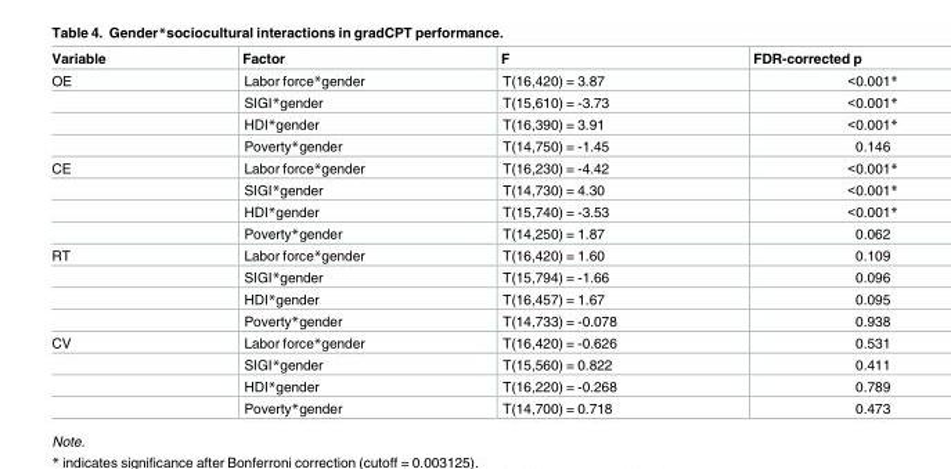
<table><thead><tr><td>Variable</td><td>Factor</td><td>F</td><td>FDR-corrected p</td></tr></thead><tbody><tr><td rowspan="4">OE</td><td>Labor force*gender</td><td>T(16,420) = 3.87</td><td>&lt;0.001*</td></tr><tr><td>SIGI*gender</td><td>T(15,610) = -3.73</td><td>&lt;0.001*</td></tr><tr><td>HDI*gender</td><td>T(16,390) = 3.91</td><td>&lt;0.001*</td></tr><tr><td>Poverty*gender</td><td>T(14,750) = -1.45</td><td>0.146</td></tr><tr><td rowspan="4">CE</td><td>Labor force*gender</td><td>T(16,230) = -4.42</td><td>&lt;0.001*</td></tr><tr><td>SIGI*gender</td><td>T(14,730) = 4.30</td><td>&lt;0.001*</td></tr><tr><td>HDI*gender</td><td>T(15,740) = -3.53</td><td>&lt;0.001*</td></tr><tr><td>Poverty*gender</td><td>T(14,250) = 1.87</td><td>0.062</td></tr><tr><td rowspan="4">RT</td><td>Labor force*gender</td><td>T(16,420) = 1.60</td><td>0.109</td></tr><tr><td>SIGI*gender</td><td>T(15,794) = -1.66</td><td>0.096</td></tr><tr><td>HDI*gender</td><td>T(16,457) = 1.67</td><td>0.095</td></tr><tr><td>Poverty*gender</td><td>T(14,733) = -0.078</td><td>0.938</td></tr><tr><td rowspan="4">CV</td><td>Labor force*gender</td><td>T(16,420) = -0.626</td><td>0.531</td></tr><tr><td>SIGI*gender</td><td>T(15,560) = 0.822</td><td>0.411</td></tr><tr><td>HDI*gender</td><td>T(16,220) = -0.268</td><td>0.789</td></tr><tr><td>Poverty*gender</td><td>T(14,700) = 0.718</td><td>0.473</td></tr></tbody></table>